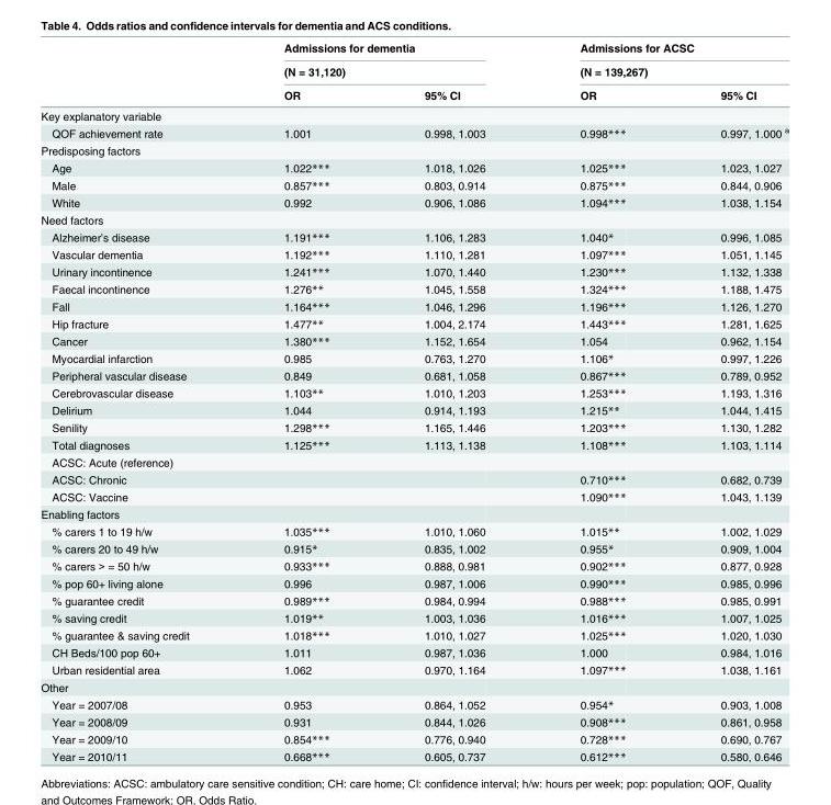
<table><thead><tr><td rowspan="3"></td><td rowspan="2" colspan="2">Admissions for dementia (N = 31,120)</td><td rowspan="2" colspan="2">Admissions for ACSC (N = 139,267)</td></tr><tr></tr><tr><td>OR</td><td>95% CI</td><td>OR</td><td>95% CI</td></tr></thead><tbody><tr><td colspan="5">Key explanatory variable</td></tr><tr><td>QOF achievement rate</td><td>1.001</td><td>0.998, 1.003</td><td>0.998***</td><td>0.997, 1.000 <sup>a</sup></td></tr><tr><td colspan="5">Predisposing factors</td></tr><tr><td>Age</td><td>1.022***</td><td>1.018, 1.026</td><td>1.025***</td><td>1.023, 1.027</td></tr><tr><td>Male</td><td>0.857***</td><td>0.803, 0.914</td><td>0.875***</td><td>0.844, 0.906</td></tr><tr><td>White</td><td>0.992</td><td>0.906, 1.086</td><td>1.094***</td><td>1.038, 1.154</td></tr><tr><td colspan="5">Need factors</td></tr><tr><td>Alzheimer’s disease</td><td>1.191***</td><td>1.106, 1.283</td><td>1.040*</td><td>0.996, 1.085</td></tr><tr><td>Vascular dementia</td><td>1.192***</td><td>1.110, 1.281</td><td>1.097***</td><td>1.051, 1.145</td></tr><tr><td>Urinary incontinence</td><td>1.241***</td><td>1.070, 1.440</td><td>1.230***</td><td>1.132, 1.338</td></tr><tr><td>Faecal incontinence</td><td>1.276**</td><td>1.045, 1.558</td><td>1.324***</td><td>1.188, 1.475</td></tr><tr><td>Fall</td><td>1.164***</td><td>1.046, 1.296</td><td>1.196***</td><td>1.126, 1.270</td></tr><tr><td>Hip fracture</td><td>1.477**</td><td>1.004, 2.174</td><td>1.443***</td><td>1.281, 1.625</td></tr><tr><td>Cancer</td><td>1.380***</td><td>1.152, 1.654</td><td>1.054</td><td>0.962, 1.154</td></tr><tr><td>Myocardial infarction</td><td>0.985</td><td>0.763, 1.270</td><td>1.106*</td><td>0.997, 1.226</td></tr><tr><td>Peripheral vascular disease</td><td>0.849</td><td>0.681, 1.058</td><td>0.867***</td><td>0.789, 0.952</td></tr><tr><td>Cerebrovascular disease</td><td>1.103**</td><td>1.010, 1.203</td><td>1.253***</td><td>1.193, 1.316</td></tr><tr><td>Delirium</td><td>1.044</td><td>0.914, 1.193</td><td>1.215**</td><td>1.044, 1.415</td></tr><tr><td>Senility</td><td>1.298***</td><td>1.165, 1.446</td><td>1.203***</td><td>1.130, 1.282</td></tr><tr><td>Total diagnoses</td><td>1.125***</td><td>1.113, 1.138</td><td>1.108***</td><td>1.103, 1.114</td></tr><tr><td colspan="5">ACSC: Acute (reference)</td></tr><tr><td>ACSC: Chronic</td><td></td><td></td><td>0.710***</td><td>0.682, 0.739</td></tr><tr><td>ACSC: Vaccine</td><td></td><td></td><td>1.090***</td><td>1.043, 1.139</td></tr><tr><td colspan="5">Enabling factors</td></tr><tr><td>% carers 1 to 19 h/w</td><td>1.035***</td><td>1.010, 1.060</td><td>1.015**</td><td>1.002, 1.029</td></tr><tr><td>% carers 20 to 49 h/w</td><td>0.915*</td><td>0.835, 1.002</td><td>0.955*</td><td>0.909, 1.004</td></tr><tr><td>% carers &gt; = 50 h/w</td><td>0.933***</td><td>0.888, 0.981</td><td>0.902***</td><td>0.877, 0.928</td></tr><tr><td>% pop 60+ living alone</td><td>0.996</td><td>0.987, 1.006</td><td>0.990***</td><td>0.985, 0.996</td></tr><tr><td>% guarantee credit</td><td>0.989***</td><td>0.984, 0.994</td><td>0.988***</td><td>0.985, 0.991</td></tr><tr><td>% saving credit</td><td>1.019**</td><td>1.003, 1.036</td><td>1.016***</td><td>1.007, 1.025</td></tr><tr><td>% guarantee &amp; saving credit</td><td>1.018***</td><td>1.010, 1.027</td><td>1.025***</td><td>1.020, 1.030</td></tr><tr><td>CH Beds/100 pop 60+</td><td>1.011</td><td>0.987, 1.036</td><td>1.000</td><td>0.984, 1.016</td></tr><tr><td>Urban residential area</td><td>1.062</td><td>0.970, 1.164</td><td>1.097***</td><td>1.038, 1.161</td></tr><tr><td colspan="5">Other</td></tr><tr><td>Year = 2007/08</td><td>0.953</td><td>0.864, 1.052</td><td>0.954*</td><td>0.903, 1.008</td></tr><tr><td>Year = 2008/09</td><td>0.931</td><td>0.844, 1.026</td><td>0.908***</td><td>0.861, 0.958</td></tr><tr><td>Year = 2009/10</td><td>0.854***</td><td>0.776, 0.940</td><td>0.728***</td><td>0.690, 0.767</td></tr><tr><td>Year = 2010/11</td><td>0.668***</td><td>0.605, 0.737</td><td>0.612***</td><td>0.580, 0.646</td></tr></tbody></table>